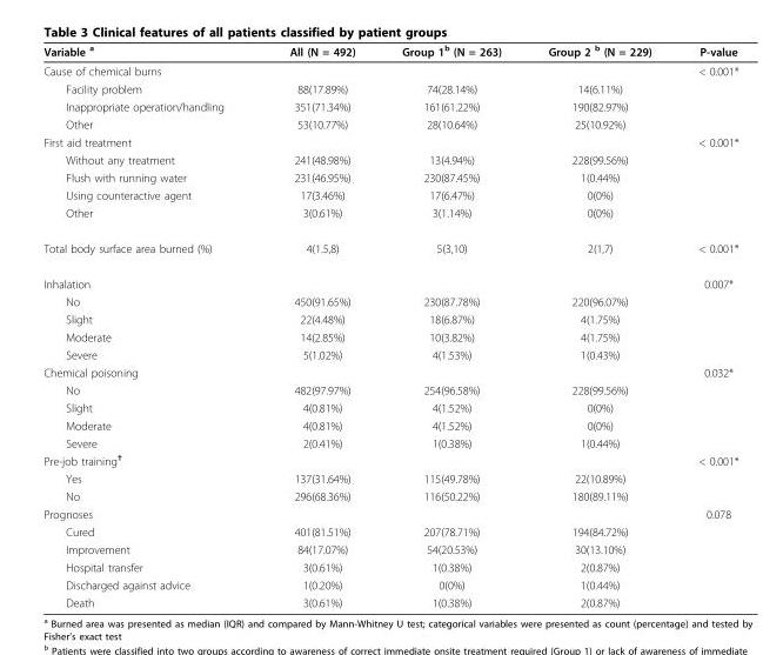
<table><thead><tr><td>Variable <sup>a</sup></td><td>All (N = 492)</td><td>Group 1<sup>b</sup> (N = 263)</td><td>Group 2 <sup>b</sup> (N = 229)</td><td>P-value</td></tr></thead><tbody><tr><td>Cause of chemical burns</td><td></td><td></td><td></td><td>&lt; 0.001*</td></tr><tr><td>Facility problem</td><td>88(17.89%)</td><td>74(28.14%)</td><td>14(6.11%)</td><td></td></tr><tr><td>Inappropriate operation/handling</td><td>351(71.34%)</td><td>161(61.22%)</td><td>190(82.97%)</td><td></td></tr><tr><td>Other</td><td>53(10.77%)</td><td>28(10.64%)</td><td>25(10.92%)</td><td></td></tr><tr><td>First aid treatment</td><td></td><td></td><td></td><td>&lt; 0.001*</td></tr><tr><td>Without any treatment</td><td>241(48.98%)</td><td>13(4.94%)</td><td>228(99.56%)</td><td></td></tr><tr><td>Flush with running water</td><td>231(46.95%)</td><td>230(87.45%)</td><td>1(0.44%)</td><td></td></tr><tr><td>Using counteractive agent</td><td>17(3.46%)</td><td>17(6.47%)</td><td>0(0%)</td><td></td></tr><tr><td>Other</td><td>3(0.61%)</td><td>3(1.14%)</td><td>0(0%)</td><td></td></tr><tr><td>Total body surface area burned (%)</td><td>4(1.5,8)</td><td>5(3,10)</td><td>2(1,7)</td><td>&lt; 0.001*</td></tr><tr><td>Inhalation</td><td></td><td></td><td></td><td>0.007*</td></tr><tr><td>No</td><td>450(91.65%)</td><td>230(87.78%)</td><td>220(96.07%)</td><td></td></tr><tr><td>Slight</td><td>22(4.48%)</td><td>18(6.87%)</td><td>4(1.75%)</td><td></td></tr><tr><td>Moderate</td><td>14(2.85%)</td><td>10(3.82%)</td><td>4(1.75%)</td><td></td></tr><tr><td>Severe</td><td>5(1.02%)</td><td>4(1.53%)</td><td>1(0.43%)</td><td></td></tr><tr><td>Chemical poisoning</td><td></td><td></td><td></td><td>0.032*</td></tr><tr><td>No</td><td>482(97.97%)</td><td>254(96.58%)</td><td>228(99.56%)</td><td></td></tr><tr><td>Slight</td><td>4(0.81%)</td><td>4(1.52%)</td><td>0(0%)</td><td></td></tr><tr><td>Moderate</td><td>4(0.81%)</td><td>4(1.52%)</td><td>0(0%)</td><td></td></tr><tr><td>Severe</td><td>2(0.41%)</td><td>1(0.38%)</td><td>1(0.44%)</td><td></td></tr><tr><td>Pre-job training<sup>†</sup></td><td></td><td></td><td></td><td>&lt; 0.001*</td></tr><tr><td>Yes</td><td>137(31.64%)</td><td>115(49.78%)</td><td>22(10.89%)</td><td></td></tr><tr><td>No</td><td>296(68.36%)</td><td>116(50.22%)</td><td>180(89.11%)</td><td></td></tr><tr><td>Prognoses</td><td></td><td></td><td></td><td>0.078</td></tr><tr><td>Cured</td><td>401(81.51%)</td><td>207(78.71%)</td><td>194(84.72%)</td><td></td></tr><tr><td>Improvement</td><td>84(17.07%)</td><td>54(20.53%)</td><td>30(13.10%)</td><td></td></tr><tr><td>Hospital transfer</td><td>3(0.61%)</td><td>1(0.38%)</td><td>2(0.87%)</td><td></td></tr><tr><td>Discharged against advice</td><td>1(0.20%)</td><td>0(0%)</td><td>1(0.44%)</td><td></td></tr><tr><td>Death</td><td>3(0.61%)</td><td>1(0.38%)</td><td>2(0.87%)</td><td></td></tr></tbody></table>